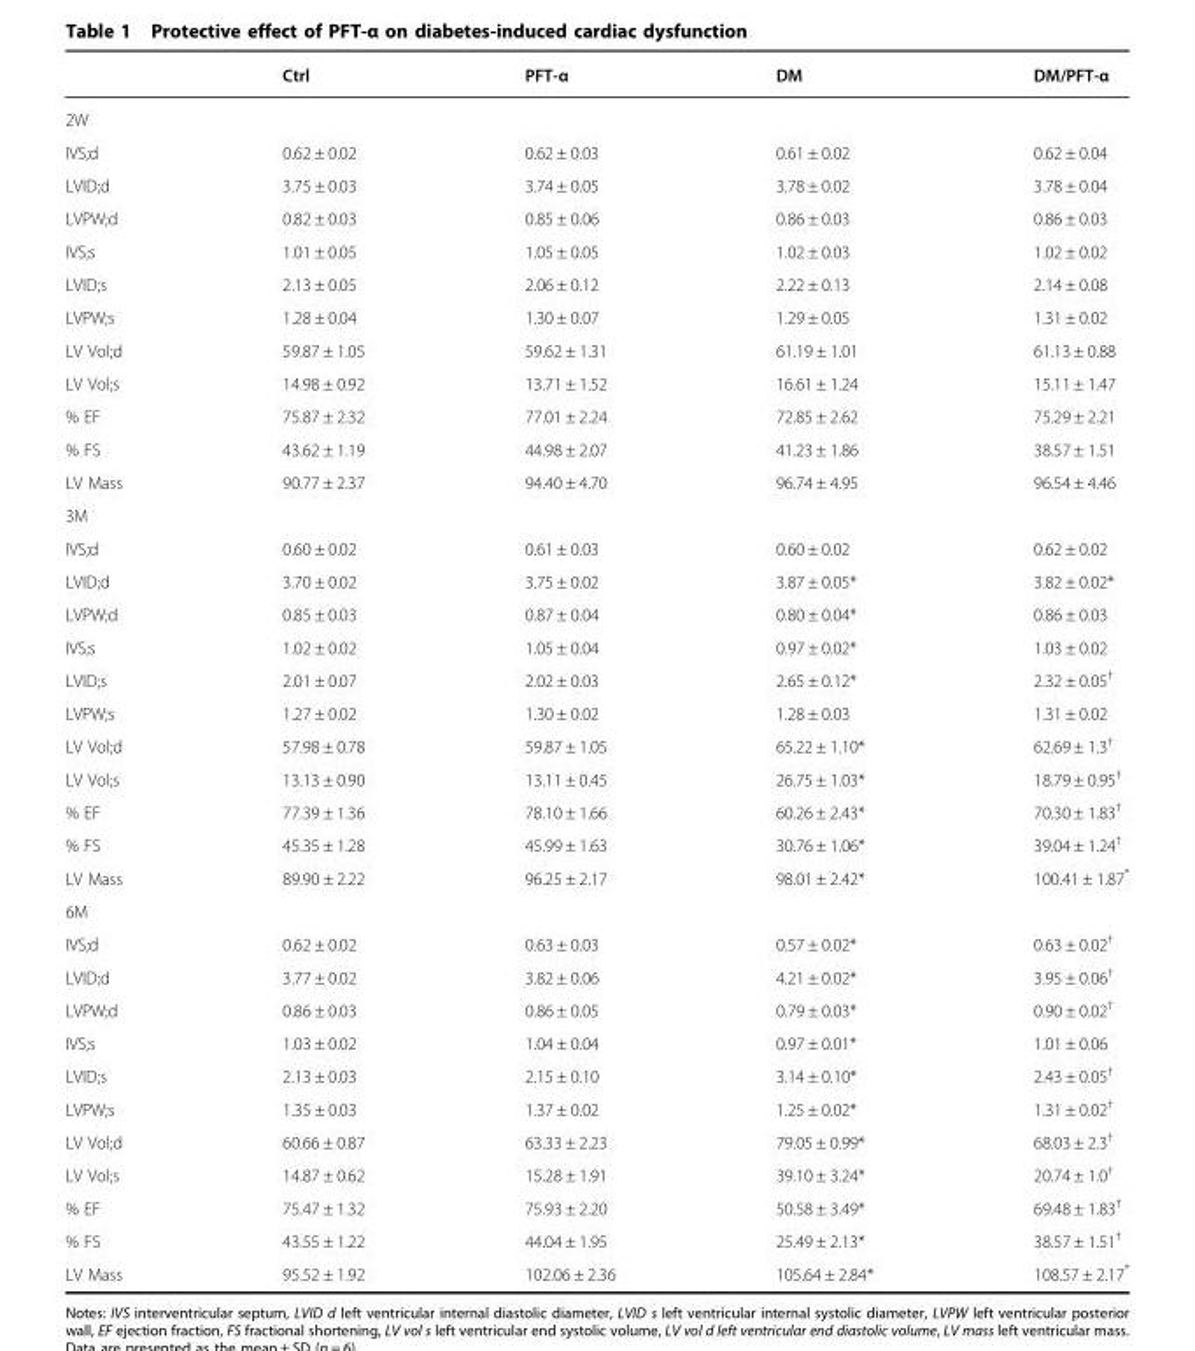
<table><thead><tr><td></td><td>Ctrl</td><td>PFT-α</td><td>DM</td><td>DM/PFT-α</td></tr></thead><tbody><tr><td colspan="5">2W</td></tr><tr><td>IVS;d</td><td>0.62 ± 0.02</td><td>0.62 ± 0.03</td><td>0.61 ± 0.02</td><td>0.62 ± 0.04</td></tr><tr><td>LVID;d</td><td>3.75 ± 0.03</td><td>3.74 ± 0.05</td><td>3.78 ± 0.02</td><td>3.78 ± 0.04</td></tr><tr><td>LVPW;d</td><td>0.82 ± 0.03</td><td>0.85 ± 0.06</td><td>0.86 ± 0.03</td><td>0.86 ± 0.03</td></tr><tr><td>IVS;s</td><td>1.01 ± 0.05</td><td>1.05 ± 0.05</td><td>1.02 ± 0.03</td><td>1.02 ± 0.02</td></tr><tr><td>LVID;s</td><td>2.13 ± 0.05</td><td>2.06 ± 0.12</td><td>2.22 ± 0.13</td><td>2.14 ± 0.08</td></tr><tr><td>LVPW;s</td><td>1.28 ± 0.04</td><td>1.30 ± 0.07</td><td>1.29 ± 0.05</td><td>1.31 ± 0.02</td></tr><tr><td>LV Vol;d</td><td>59.87 ± 1.05</td><td>59.62 ± 1.31</td><td>61.19 ± 1.01</td><td>61.13 ± 0.88</td></tr><tr><td>LV Vol;s</td><td>14.98 ± 0.92</td><td>13.71 ± 1.52</td><td>16.61 ± 1.24</td><td>15.11 ± 1.47</td></tr><tr><td>% EF</td><td>75.87 ± 2.32</td><td>77.01 ± 2.24</td><td>72.85 ± 2.62</td><td>75.29 ± 2.21</td></tr><tr><td>% FS</td><td>43.62 ± 1.19</td><td>44.98 ± 2.07</td><td>41.23 ± 1.86</td><td>38.57 ± 1.51</td></tr><tr><td>LV Mass</td><td>90.77 ± 2.37</td><td>94.40 ± 4.70</td><td>96.74 ± 4.95</td><td>96.54 ± 4.46</td></tr><tr><td colspan="5">3M</td></tr><tr><td>IVS;d</td><td>0.60 ± 0.02</td><td>0.61 ± 0.03</td><td>0.60 ± 0.02</td><td>0.62 ± 0.02</td></tr><tr><td>LVID;d</td><td>3.70 ± 0.02</td><td>3.75 ± 0.02</td><td>3.87 ± 0.05*</td><td>3.82 ± 0.02*</td></tr><tr><td>LVPW;d</td><td>0.85 ± 0.03</td><td>0.87 ± 0.04</td><td>0.80 ± 0.04*</td><td>0.86 ± 0.03</td></tr><tr><td>IVS;s</td><td>1.02 ± 0.02</td><td>1.05 ± 0.04</td><td>0.97 ± 0.02*</td><td>1.03 ± 0.02</td></tr><tr><td>LVID;s</td><td>2.01 ± 0.07</td><td>2.02 ± 0.03</td><td>2.65 ± 0.12*</td><td>2.32 ± 0.05<sup>†</sup></td></tr><tr><td>LVPW;s</td><td>1.27 ± 0.02</td><td>1.30 ± 0.02</td><td>1.28 ± 0.03</td><td>1.31 ± 0.02</td></tr><tr><td>LV Vol;d</td><td>57.98 ± 0.78</td><td>59.87 ± 1.05</td><td>65.22 ± 1.10*</td><td>62.69 ± 1.3<sup>†</sup></td></tr><tr><td>LV Vol;s</td><td>13.13 ± 0.90</td><td>13.11 ± 0.45</td><td>26.75 ± 1.03*</td><td>18.79 ± 0.95<sup>†</sup></td></tr><tr><td>% EF</td><td>77.39 ± 1.36</td><td>78.10 ± 1.66</td><td>60.26 ± 2.43*</td><td>70.30 ± 1.83<sup>†</sup></td></tr><tr><td>% FS</td><td>45.35 ± 1.28</td><td>45.99 ± 1.63</td><td>30.76 ± 1.06*</td><td>39.04 ± 1.24<sup>†</sup></td></tr><tr><td>LV Mass</td><td>89.90 ± 2.22</td><td>96.25 ± 2.17</td><td>98.01 ± 2.42*</td><td>100.41 ± 1.87*</td></tr><tr><td colspan="5">6M</td></tr><tr><td>IVS;d</td><td>0.62 ± 0.02</td><td>0.63 ± 0.03</td><td>0.57 ± 0.02*</td><td>0.63 ± 0.02<sup>†</sup></td></tr><tr><td>LVID;d</td><td>3.77 ± 0.02</td><td>3.82 ± 0.06</td><td>4.21 ± 0.02*</td><td>3.95 ± 0.06<sup>†</sup></td></tr><tr><td>LVPW;d</td><td>0.86 ± 0.03</td><td>0.86 ± 0.05</td><td>0.79 ± 0.03*</td><td>0.90 ± 0.02<sup>†</sup></td></tr><tr><td>IVS;s</td><td>1.03 ± 0.02</td><td>1.04 ± 0.04</td><td>0.97 ± 0.01*</td><td>1.01 ± 0.06</td></tr><tr><td>LVID;s</td><td>2.13 ± 0.03</td><td>2.15 ± 0.10</td><td>3.14 ± 0.10*</td><td>2.43 ± 0.05<sup>†</sup></td></tr><tr><td>LVPW;s</td><td>1.35 ± 0.03</td><td>1.37 ± 0.02</td><td>1.25 ± 0.02*</td><td>1.31 ± 0.02<sup>†</sup></td></tr><tr><td>LV Vol;d</td><td>60.66 ± 0.87</td><td>63.33 ± 2.23</td><td>79.05 ± 0.99*</td><td>68.03 ± 2.3<sup>†</sup></td></tr><tr><td>LV Vol;s</td><td>14.87 ± 0.62</td><td>15.28 ± 1.91</td><td>39.10 ± 3.24*</td><td>20.74 ± 1.0<sup>†</sup></td></tr><tr><td>% EF</td><td>75.47 ± 1.32</td><td>75.93 ± 2.20</td><td>50.58 ± 3.49*</td><td>69.48 ± 1.83<sup>†</sup></td></tr><tr><td>% FS</td><td>43.55 ± 1.22</td><td>44.04 ± 1.95</td><td>25.49 ± 2.13*</td><td>38.57 ± 1.51<sup>†</sup></td></tr><tr><td>LV Mass</td><td>95.52 ± 1.92</td><td>102.06 ± 2.36</td><td>105.64 ± 2.84*</td><td>108.57 ± 2.17*</td></tr></tbody></table>